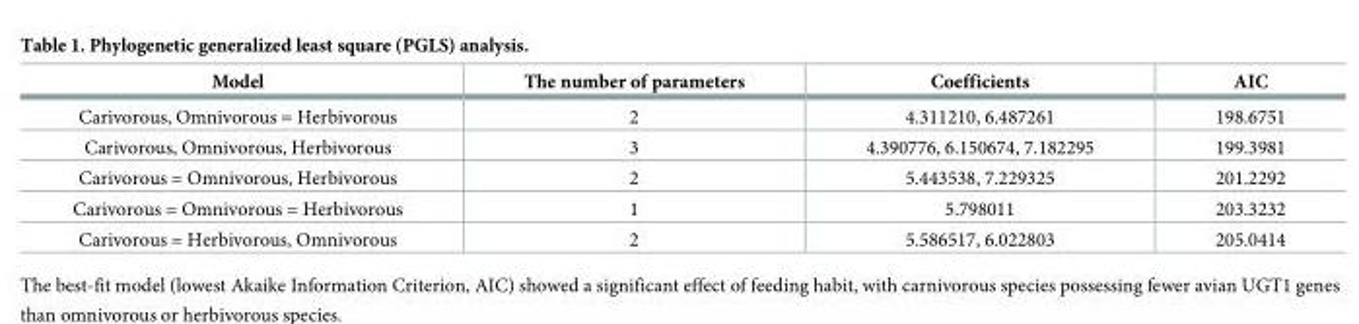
<table><thead><tr><td>Model</td><td>The number of parameters</td><td>Coefficients</td><td>AIC</td></tr></thead><tbody><tr><td>Carivorous, Omnivorous = Herbivorous</td><td>2</td><td>4.311210, 6.487261</td><td>198.6751</td></tr><tr><td>Carivorous, Omnivorous, Herbivorous</td><td>3</td><td>4.390776, 6.150674, 7.182295</td><td>199.3981</td></tr><tr><td>Carivorous = Omnivorous, Herbivorous</td><td>2</td><td>5.443538, 7.229325</td><td>201.2292</td></tr><tr><td>Carivorous = Omnivorous = Herbivorous</td><td>1</td><td>5.798011</td><td>203.3232</td></tr><tr><td>Carivorous = Herbivorous, Omnivorous</td><td>2</td><td>5.586517, 6.022803</td><td>205.0414</td></tr></tbody></table>